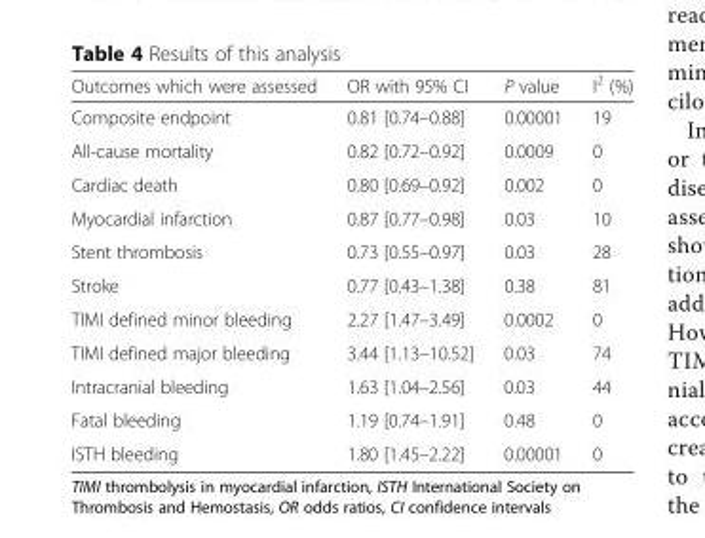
<table><thead><tr><td>Outcomes which were assessed</td><td>OR with 95% CI</td><td>P value</td><td>I<sup>2</sup> (%)</td></tr></thead><tbody><tr><td>Composite endpoint</td><td>0.81 [0.74–0.88]</td><td>0.00001</td><td>19</td></tr><tr><td>All-cause mortality</td><td>0.82 [0.72–0.92]</td><td>0.0009</td><td>0</td></tr><tr><td>Cardiac death</td><td>0.80 [0.69–0.92]</td><td>0.002</td><td>0</td></tr><tr><td>Myocardial infarction</td><td>0.87 [0.77–0.98]</td><td>0.03</td><td>10</td></tr><tr><td>Stent thrombosis</td><td>0.73 [0.55–0.97]</td><td>0.03</td><td>28</td></tr><tr><td>Stroke</td><td>0.77 [0.43–1.38]</td><td>0.38</td><td>81</td></tr><tr><td>TIMI defined minor bleeding</td><td>2.27 [1.47–3.49]</td><td>0.0002</td><td>0</td></tr><tr><td>TIMI defined major bleeding</td><td>3.44 [1.13–10.52]</td><td>0.03</td><td>74</td></tr><tr><td>Intracranial bleeding</td><td>1.63 [1.04–2.56]</td><td>0.03</td><td>44</td></tr><tr><td>Fatal bleeding</td><td>1.19 [0.74–1.91]</td><td>0.48</td><td>0</td></tr><tr><td>ISTH bleeding</td><td>1.80 [1.45–2.22]</td><td>0.00001</td><td>0</td></tr></tbody></table>